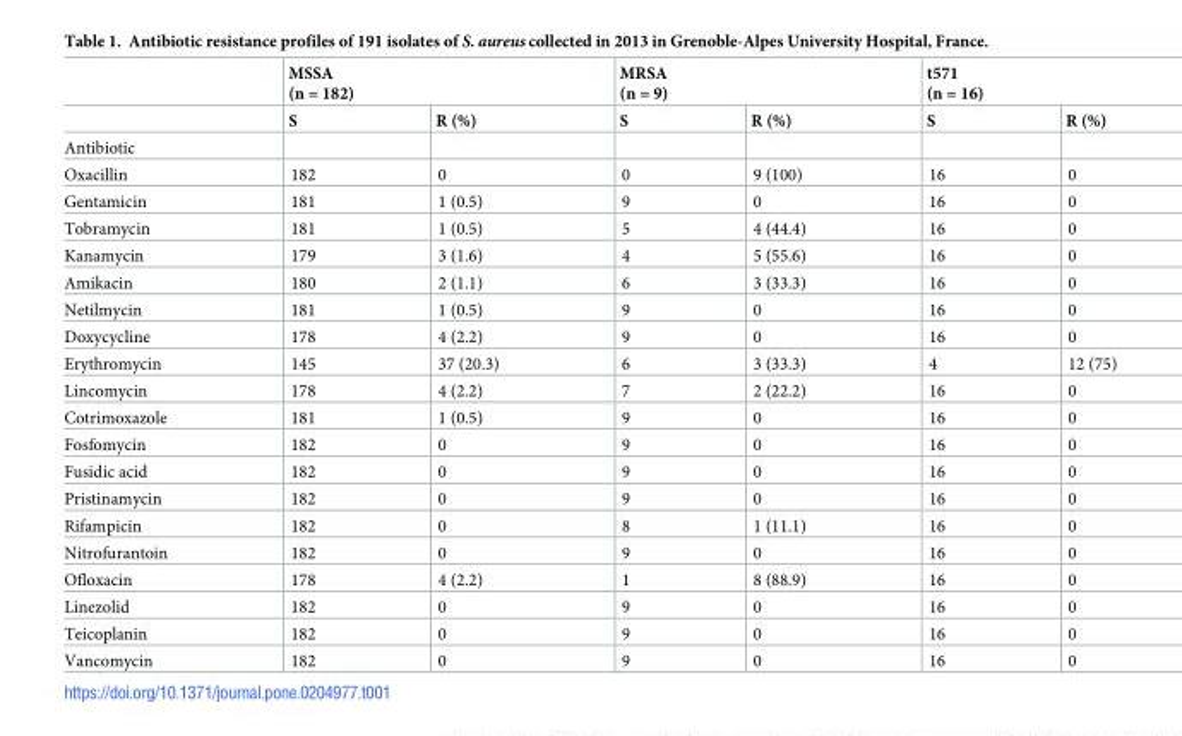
<table><thead><tr><td rowspan="2"></td><td colspan="2">MSSA (n = 182)</td><td colspan="2">MRSA (n = 9)</td><td colspan="2">t571 (n = 16)</td></tr><tr><td>S</td><td>R (%)</td><td>S</td><td>R (%)</td><td>S</td><td>R (%)</td></tr></thead><tbody><tr><td colspan="7">Antibiotic</td></tr><tr><td>Oxacillin</td><td>182</td><td>0</td><td>0</td><td>9 (100)</td><td>16</td><td>0</td></tr><tr><td>Gentamicin</td><td>181</td><td>1 (0.5)</td><td>9</td><td>0</td><td>16</td><td>0</td></tr><tr><td>Tobramycin</td><td>181</td><td>1 (0.5)</td><td>5</td><td>4 (44.4)</td><td>16</td><td>0</td></tr><tr><td>Kanamycin</td><td>179</td><td>3 (1.6)</td><td>4</td><td>5 (55.6)</td><td>16</td><td>0</td></tr><tr><td>Amikacin</td><td>180</td><td>2 (1.1)</td><td>6</td><td>3 (33.3)</td><td>16</td><td>0</td></tr><tr><td>Netilmycin</td><td>181</td><td>1 (0.5)</td><td>9</td><td>0</td><td>16</td><td>0</td></tr><tr><td>Doxycycline</td><td>178</td><td>4 (2.2)</td><td>9</td><td>0</td><td>16</td><td>0</td></tr><tr><td>Erythromycin</td><td>145</td><td>37 (20.3)</td><td>6</td><td>3 (33.3)</td><td>4</td><td>12 (75)</td></tr><tr><td>Lincomycin</td><td>178</td><td>4 (2.2)</td><td>7</td><td>2 (22.2)</td><td>16</td><td>0</td></tr><tr><td>Cotrimoxazole</td><td>181</td><td>1 (0.5)</td><td>9</td><td>0</td><td>16</td><td>0</td></tr><tr><td>Fosfomycin</td><td>182</td><td>0</td><td>9</td><td>0</td><td>16</td><td>0</td></tr><tr><td>Fusidic acid</td><td>182</td><td>0</td><td>9</td><td>0</td><td>16</td><td>0</td></tr><tr><td>Pristinamycin</td><td>182</td><td>0</td><td>9</td><td>0</td><td>16</td><td>0</td></tr><tr><td>Rifampicin</td><td>182</td><td>0</td><td>8</td><td>1 (11.1)</td><td>16</td><td>0</td></tr><tr><td>Nitrofurantoin</td><td>182</td><td>0</td><td>9</td><td>0</td><td>16</td><td>0</td></tr><tr><td>Ofloxacin</td><td>178</td><td>4 (2.2)</td><td>1</td><td>8 (88.9)</td><td>16</td><td>0</td></tr><tr><td>Linezolid</td><td>182</td><td>0</td><td>9</td><td>0</td><td>16</td><td>0</td></tr><tr><td>Teicoplanin</td><td>182</td><td>0</td><td>9</td><td>0</td><td>16</td><td>0</td></tr><tr><td>Vancomycin</td><td>182</td><td>0</td><td>9</td><td>0</td><td>16</td><td>0</td></tr></tbody></table>